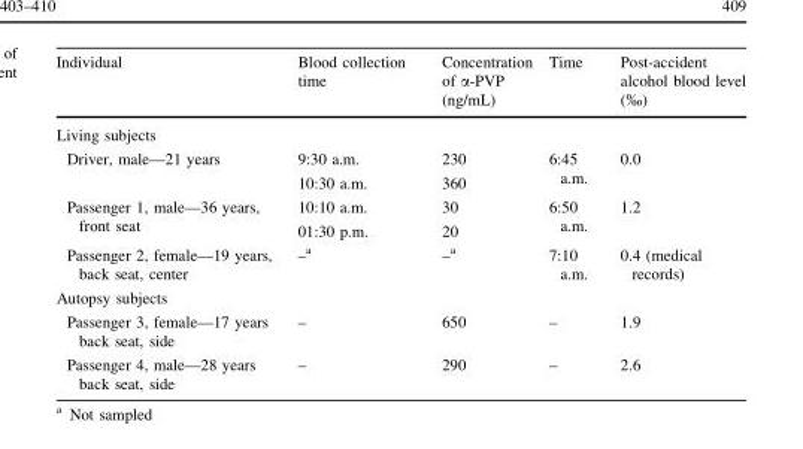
<table><thead><tr><td>Individual</td><td>Blood collection time</td><td>Concentration of α-PVP (ng/mL)</td><td>Time</td><td>Post-accident alcohol blood level (‰)</td></tr></thead><tbody><tr><td colspan="5">Living subjects</td></tr><tr><td>Driver, male—21 years</td><td>9:30 a.m. 10:30 a.m.</td><td>230 360</td><td>6:45 a.m.</td><td>0.0</td></tr><tr><td>Passenger 1, male—36 years, front seat</td><td>10:10 a.m. 01:30 p.m.</td><td>30 20</td><td>6:50 a.m.</td><td>1.2</td></tr><tr><td>Passenger 2, female—19 years, back seat, center</td><td>–<sup>a</sup></td><td>–<sup>a</sup></td><td>7:10 a.m.</td><td>0.4 (medical records)</td></tr><tr><td colspan="5">Autopsy subjects</td></tr><tr><td>Passenger 3, female—17 years back seat, side</td><td>–</td><td>650</td><td>–</td><td>1.9</td></tr><tr><td>Passenger 4, male—28 years back seat, side</td><td>–</td><td>290</td><td>–</td><td>2.6</td></tr></tbody></table>